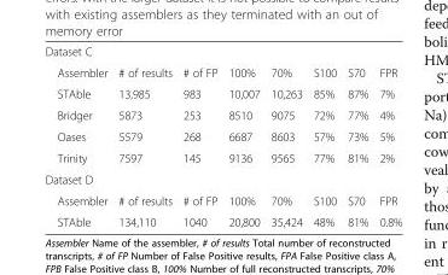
<table><tbody><tr><td colspan="8">Dataset C</td></tr><tr><td>Assembler</td><td># of results</td><td># of FP</td><td>100%</td><td>70%</td><td>S100</td><td>S70</td><td>FPR</td></tr><tr><td>STAble</td><td>13,985</td><td>983</td><td>10,007</td><td>10,263</td><td>85%</td><td>87%</td><td>7%</td></tr><tr><td>Bridger</td><td>5873</td><td>253</td><td>8510</td><td>9075</td><td>72%</td><td>77%</td><td>4%</td></tr><tr><td>Oases</td><td>5579</td><td>268</td><td>6687</td><td>8603</td><td>57%</td><td>73%</td><td>5%</td></tr><tr><td>Trinity</td><td>7597</td><td>145</td><td>9136</td><td>9565</td><td>77%</td><td>81%</td><td>2%</td></tr><tr><td colspan="8">Dataset D</td></tr><tr><td>Assembler</td><td># of results</td><td># of FP</td><td>100%</td><td>70%</td><td>S100</td><td>S70</td><td>FPR</td></tr><tr><td>STAble</td><td>134,110</td><td>1040</td><td>20,800</td><td>35,424</td><td>48%</td><td>81%</td><td>0.8%</td></tr></tbody></table>